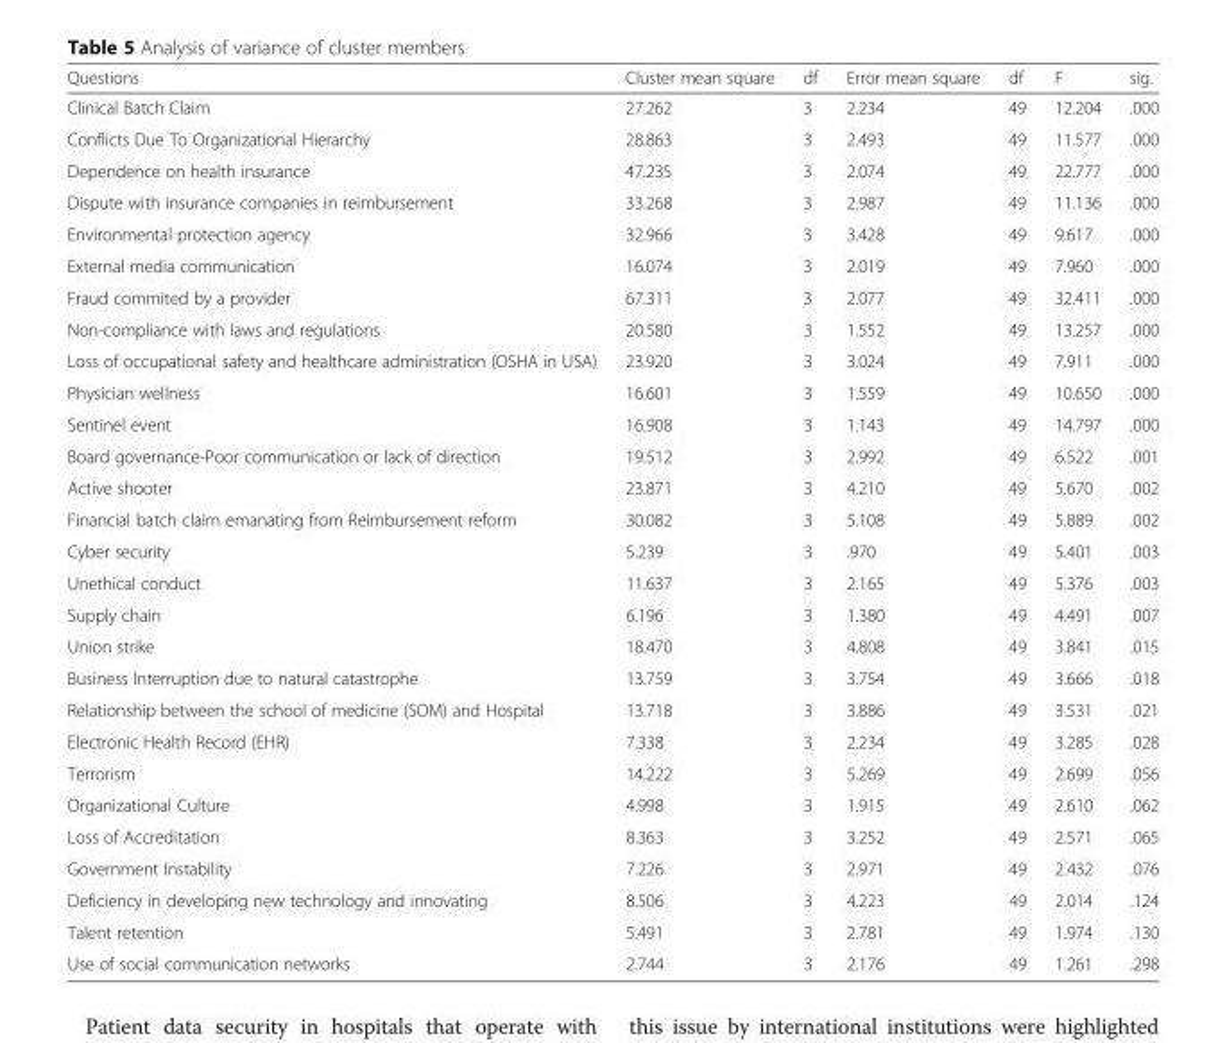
<table><thead><tr><td>Questions</td><td>Cluster mean square</td><td>df</td><td>Error mean square</td><td>df</td><td>F</td><td>sig.</td></tr></thead><tbody><tr><td>Clinical Batch Claim</td><td>27.262</td><td>3</td><td>2.234</td><td>49</td><td>12.204</td><td>.000</td></tr><tr><td>Conflicts Due To Organizational Hierarchy</td><td>28.863</td><td>3</td><td>2.493</td><td>49</td><td>11.577</td><td>.000</td></tr><tr><td>Dependence on health insurance</td><td>47.235</td><td>3</td><td>2.074</td><td>49</td><td>22.777</td><td>.000</td></tr><tr><td>Dispute with insurance companies in reimbursement</td><td>33.268</td><td>3</td><td>2.987</td><td>49</td><td>11.136</td><td>.000</td></tr><tr><td>Environmental protection agency</td><td>32.966</td><td>3</td><td>3.428</td><td>49</td><td>9.617</td><td>.000</td></tr><tr><td>External media communication</td><td>16.074</td><td>3</td><td>2.019</td><td>49</td><td>7.960</td><td>.000</td></tr><tr><td>Fraud commited by a provider</td><td>67.311</td><td>3</td><td>2.077</td><td>49</td><td>32.411</td><td>.000</td></tr><tr><td>Non-compliance with laws and regulations</td><td>20.580</td><td>3</td><td>1.552</td><td>49</td><td>13.257</td><td>.000</td></tr><tr><td>Loss of occupational safety and healthcare administration (OSHA in USA)</td><td>23.920</td><td>3</td><td>3.024</td><td>49</td><td>7.911</td><td>.000</td></tr><tr><td>Physician wellness</td><td>16.601</td><td>3</td><td>1.559</td><td>49</td><td>10.650</td><td>.000</td></tr><tr><td>Sentinel event</td><td>16.908</td><td>3</td><td>1.143</td><td>49</td><td>14.797</td><td>.000</td></tr><tr><td>Board governance-Poor communication or lack of direction</td><td>19.512</td><td>3</td><td>2.992</td><td>49</td><td>6.522</td><td>.001</td></tr><tr><td>Active shooter</td><td>23.871</td><td>3</td><td>4.210</td><td>49</td><td>5.670</td><td>.002</td></tr><tr><td>Financial batch claim emanating from Reimbursement reform</td><td>30.082</td><td>3</td><td>5.108</td><td>49</td><td>5.889</td><td>.002</td></tr><tr><td>Cyber security</td><td>5.239</td><td>3</td><td>.970</td><td>49</td><td>5.401</td><td>.003</td></tr><tr><td>Unethical conduct</td><td>11.637</td><td>3</td><td>2.165</td><td>49</td><td>5.376</td><td>.003</td></tr><tr><td>Supply chain</td><td>6.196</td><td>3</td><td>1.380</td><td>49</td><td>4.491</td><td>.007</td></tr><tr><td>Union strike</td><td>18.470</td><td>3</td><td>4.808</td><td>49</td><td>3.841</td><td>.015</td></tr><tr><td>Business Interruption due to natural catastrophe</td><td>13.759</td><td>3</td><td>3.754</td><td>49</td><td>3.666</td><td>.018</td></tr><tr><td>Relationship between the school of medicine (SOM) and Hospital</td><td>13.718</td><td>3</td><td>3.886</td><td>49</td><td>3.531</td><td>.021</td></tr><tr><td>Electronic Health Record (EHR)</td><td>7.338</td><td>3</td><td>2.234</td><td>49</td><td>3.285</td><td>.028</td></tr><tr><td>Terrorism</td><td>14.222</td><td>3</td><td>5.269</td><td>49</td><td>2.699</td><td>.056</td></tr><tr><td>Organizational Culture</td><td>4.998</td><td>3</td><td>1.915</td><td>49</td><td>2.610</td><td>.062</td></tr><tr><td>Loss of Accreditation</td><td>8.363</td><td>3</td><td>3.252</td><td>49</td><td>2.571</td><td>.065</td></tr><tr><td>Government Instability</td><td>7.226</td><td>3</td><td>2.971</td><td>49</td><td>2.432</td><td>.076</td></tr><tr><td>Deficiency in developing new technology and innovating</td><td>8.506</td><td>3</td><td>4.223</td><td>49</td><td>2.014</td><td>.124</td></tr><tr><td>Talent retention</td><td>5.491</td><td>3</td><td>2.781</td><td>49</td><td>1.974</td><td>.130</td></tr><tr><td>Use of social communication networks</td><td>2.744</td><td>3</td><td>2.176</td><td>49</td><td>1.261</td><td>.298</td></tr></tbody></table>